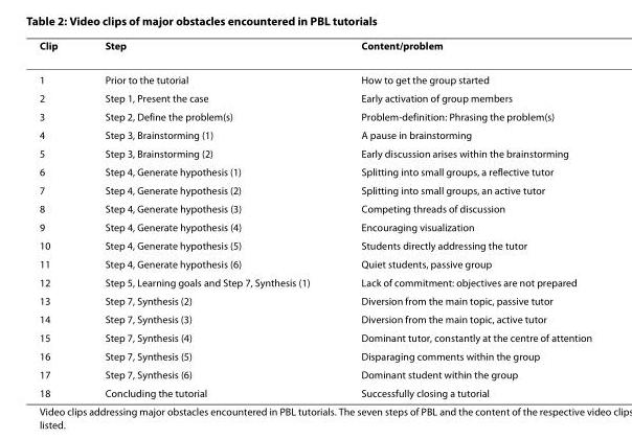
<table><thead><tr><td>Clip</td><td>Step</td><td>Content/problem</td></tr></thead><tbody><tr><td>1</td><td>Prior to the tutorial</td><td>How to get the group started</td></tr><tr><td>2</td><td>Step 1, Present the case</td><td>Early activation of group members</td></tr><tr><td>3</td><td>Step 2, Define the problem(s)</td><td>Problem-definition: Phrasing the problem(s)</td></tr><tr><td>4</td><td>Step 3, Brainstorming (1)</td><td>A pause in brainstorming</td></tr><tr><td>5</td><td>Step 3, Brainstorming (2)</td><td>Early discussion arises within the brainstorming</td></tr><tr><td>6</td><td>Step 4, Generate hypothesis (1)</td><td>Splitting into small groups, a reflective tutor</td></tr><tr><td>7</td><td>Step 4, Generate hypothesis (2)</td><td>Splitting into small groups, an active tutor</td></tr><tr><td>8</td><td>Step 4, Generate hypothesis (3)</td><td>Competing threads of discussion</td></tr><tr><td>9</td><td>Step 4, Generate hypothesis (4)</td><td>Encouraging visualization</td></tr><tr><td>10</td><td>Step 4, Generate hypothesis (5)</td><td>Students directly addressing the tutor</td></tr><tr><td>11</td><td>Step 4, Generate hypothesis (6)</td><td>Quiet students, passive group</td></tr><tr><td>12</td><td>Step 5, Learning goals and Step 7, Synthesis (1)</td><td>Lack of commitment: objectives are not prepared</td></tr><tr><td>13</td><td>Step 7, Synthesis (2)</td><td>Diversion from the main topic, passive tutor</td></tr><tr><td>14</td><td>Step 7, Synthesis (3)</td><td>Diversion from the main topic, active tutor</td></tr><tr><td>15</td><td>Step 7, Synthesis (4)</td><td>Dominant tutor, constantly at the centre of attention</td></tr><tr><td>16</td><td>Step 7, Synthesis (5)</td><td>Disparaging comments within the group</td></tr><tr><td>17</td><td>Step 7, Synthesis (6)</td><td>Dominant student within the group</td></tr><tr><td>18</td><td>Concluding the tutorial</td><td>Successfully closing a tutorial</td></tr></tbody></table>